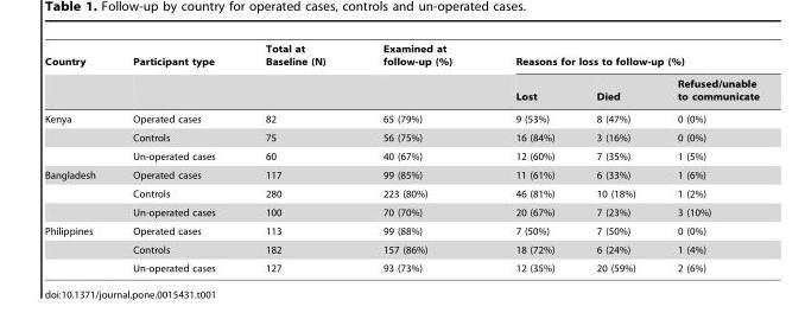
<table><thead><tr><td rowspan="2">Country</td><td rowspan="2">Participant type</td><td rowspan="2">Total at Baseline (N)</td><td rowspan="2">Examined at follow-up (%)</td><td colspan="3">Reasons for loss to follow-up (%)</td></tr><tr><td>Lost</td><td>Died</td><td>Refused/unable to communicate</td></tr></thead><tbody><tr><td rowspan="3">Kenya</td><td>Operated cases</td><td>82</td><td>65 (79%)</td><td>9 (53%)</td><td>8 (47%)</td><td>0 (0%)</td></tr><tr><td>Controls</td><td>75</td><td>56 (75%)</td><td>16 (84%)</td><td>3 (16%)</td><td>0 (0%)</td></tr><tr><td>Un-operated cases</td><td>60</td><td>40 (67%)</td><td>12 (60%)</td><td>7 (35%)</td><td>1 (5%)</td></tr><tr><td rowspan="3">Bangladesh</td><td>Operated cases</td><td>117</td><td>99 (85%)</td><td>11 (61%)</td><td>6 (33%)</td><td>1 (6%)</td></tr><tr><td>Controls</td><td>280</td><td>223 (80%)</td><td>46 (81%)</td><td>10 (18%)</td><td>1 (2%)</td></tr><tr><td>Un-operated cases</td><td>100</td><td>70 (70%)</td><td>20 (67%)</td><td>7 (23%)</td><td>3 (10%)</td></tr><tr><td rowspan="3">Philippines</td><td>Operated cases</td><td>113</td><td>99 (88%)</td><td>7 (50%)</td><td>7 (50%)</td><td>0 (0%)</td></tr><tr><td>Controls</td><td>182</td><td>157 (86%)</td><td>18 (72%)</td><td>6 (24%)</td><td>1 (4%)</td></tr><tr><td>Un-operated cases</td><td>127</td><td>93 (73%)</td><td>12 (35%)</td><td>20 (59%)</td><td>2 (6%)</td></tr></tbody></table>